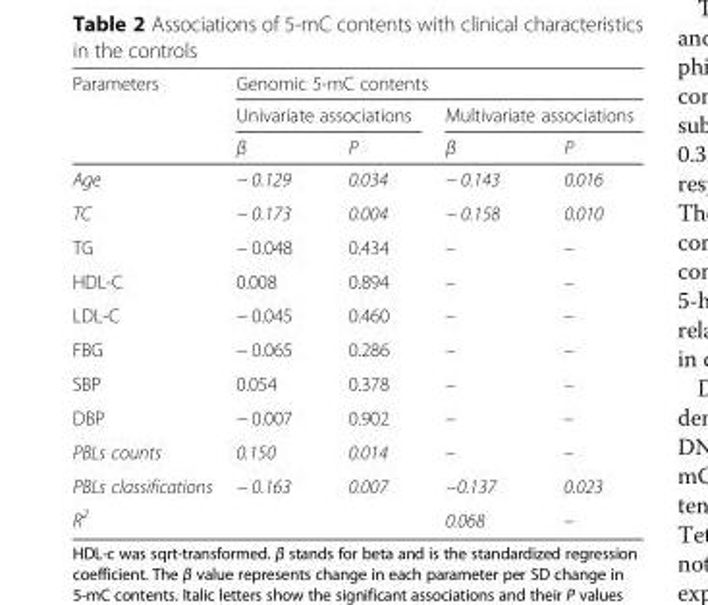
<table><thead><tr><td rowspan="3">Parameters</td><td colspan="4">Genomic 5-mC contents</td></tr><tr><td colspan="2">Univariate associations</td><td colspan="2">Multivariate associations</td></tr><tr><td>β</td><td>P</td><td>β</td><td>P</td></tr></thead><tbody><tr><td>Age</td><td>− 0.129</td><td>0.034</td><td>− 0.143</td><td>0.016</td></tr><tr><td>TC</td><td>− 0.173</td><td>0.004</td><td>− 0.158</td><td>0.010</td></tr><tr><td>TG</td><td>− 0.048</td><td>0.434</td><td>–</td><td>–</td></tr><tr><td>HDL-C</td><td>0.008</td><td>0.894</td><td>–</td><td>–</td></tr><tr><td>LDL-C</td><td>− 0.045</td><td>0.460</td><td>–</td><td>–</td></tr><tr><td>FBG</td><td>− 0.065</td><td>0.286</td><td>–</td><td>–</td></tr><tr><td>SBP</td><td>0.054</td><td>0.378</td><td>–</td><td>–</td></tr><tr><td>DBP</td><td>− 0.007</td><td>0.902</td><td>–</td><td>–</td></tr><tr><td>PBLs counts</td><td>0.150</td><td>0.014</td><td>–</td><td>–</td></tr><tr><td>PBLs classifications</td><td>− 0.163</td><td>0.007</td><td>−0.137</td><td>0.023</td></tr><tr><td>R<sup>2</sup></td><td></td><td></td><td>0.068</td><td>–</td></tr></tbody></table>